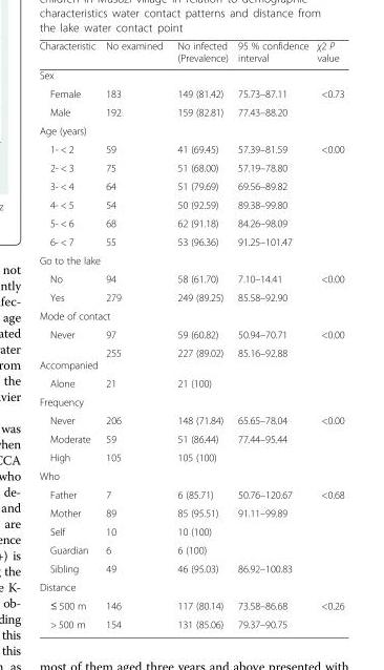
<table><thead><tr><td>Characteristic</td><td>No examined</td><td>No infected (Prevalence)</td><td>95 % confidence interval</td><td>χ2 P value</td></tr></thead><tbody><tr><td colspan="5">Sex</td></tr><tr><td>Female</td><td>183</td><td>149 (81.42)</td><td>75.73–87.11</td><td rowspan="2">&lt;0.73</td></tr><tr><td>Male</td><td>192</td><td>159 (82.81)</td><td>77.43–88.20</td></tr><tr><td colspan="5">Age (years)</td></tr><tr><td>1- &lt; 2</td><td>59</td><td>41 (69.45)</td><td>57.39–81.59</td><td rowspan="6">&lt;0.00</td></tr><tr><td>2- &lt; 3</td><td>75</td><td>51 (68.00)</td><td>57.19–78.80</td></tr><tr><td>3- &lt; 4</td><td>64</td><td>51 (79.69)</td><td>69.56–89.82</td></tr><tr><td>4- &lt; 5</td><td>54</td><td>50 (92.59)</td><td>89.38–99.80</td></tr><tr><td>5- &lt; 6</td><td>68</td><td>62 (91.18)</td><td>84.26–98.09</td></tr><tr><td>6- &lt; 7</td><td>55</td><td>53 (96.36)</td><td>91.25–101.47</td></tr><tr><td colspan="5">Go to the lake</td></tr><tr><td>No</td><td>94</td><td>58 (61.70)</td><td>7.10–14.41</td><td rowspan="2">&lt;0.00</td></tr><tr><td>Yes</td><td>279</td><td>249 (89.25)</td><td>85.58–92.90</td></tr><tr><td colspan="5">Mode of contact</td></tr><tr><td>Never</td><td>97</td><td>59 (60.82)</td><td>50.94–70.71</td><td rowspan="3">&lt;0.00</td></tr><tr><td>Accompanied</td><td>255</td><td>227 (89.02)</td><td>85.16–92.88</td></tr><tr><td>Alone</td><td>21</td><td>21 (100)</td><td></td></tr><tr><td colspan="5">Frequency</td></tr><tr><td>Never</td><td>206</td><td>148 (71.84)</td><td>65.65–78.04</td><td rowspan="3">&lt;0.00</td></tr><tr><td>Moderate</td><td>59</td><td>51 (86.44)</td><td>77.44–95.44</td></tr><tr><td>High</td><td>105</td><td>105 (100)</td><td></td></tr><tr><td colspan="5">Who</td></tr><tr><td>Father</td><td>7</td><td>6 (85.71)</td><td>50.76–120.67</td><td rowspan="5">&lt;0.68</td></tr><tr><td>Mother</td><td>89</td><td>85 (95.51)</td><td>91.11–99.89</td></tr><tr><td>Self</td><td>10</td><td>10 (100)</td><td></td></tr><tr><td>Guardian</td><td>6</td><td>6 (100)</td><td></td></tr><tr><td>Sibling</td><td>49</td><td>46 (95.03)</td><td>86.92–100.83</td></tr><tr><td colspan="5">Distance</td></tr><tr><td>≤ 500 m</td><td>146</td><td>117 (80.14)</td><td>73.58–86.68</td><td rowspan="2">&lt;0.26</td></tr><tr><td>&gt; 500 m</td><td>154</td><td>131 (85.06)</td><td>79.37–90.75</td></tr></tbody></table>